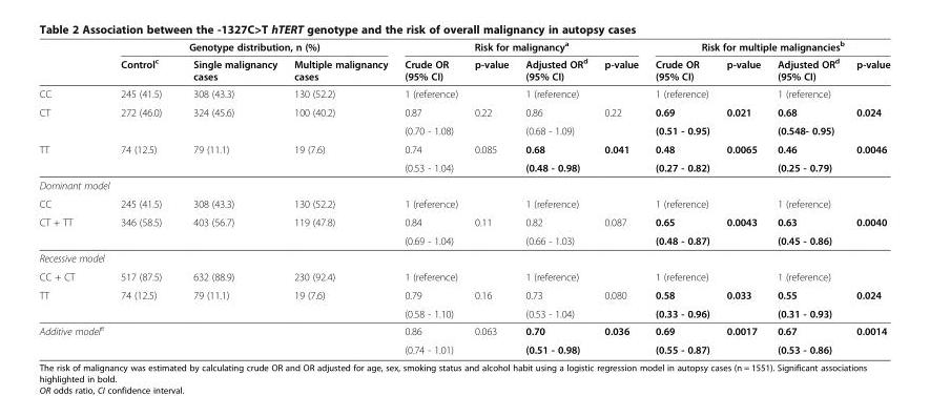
<table><thead><tr><td rowspan="2"></td><td colspan="3">Genotype distribution, n (%)</td><td colspan="4">Risk for malignancy<sup>a</sup></td><td colspan="4">Risk for multiple malignancies<sup>b</sup></td></tr><tr><td>Control<sup>c</sup></td><td>Single malignancy cases</td><td>Multiple malignancy cases</td><td>Crude OR (95% CI)</td><td>p-value</td><td>Adjusted OR<sup>d</sup> (95% CI)</td><td>p-value</td><td>Crude OR (95% CI)</td><td>p-value</td><td>Adjusted OR<sup>d</sup> (95% CI)</td><td>p-value</td></tr></thead><tbody><tr><td>CC</td><td>245 (41.5)</td><td>308 (43.3)</td><td>130 (52.2)</td><td>1 (reference)</td><td></td><td>1 (reference)</td><td></td><td>1 (reference)</td><td></td><td>1 (reference)</td><td></td></tr><tr><td rowspan="2">CT</td><td>272 (46.0)</td><td>324 (45.6)</td><td>100 (40.2)</td><td>0.87</td><td>0.22</td><td>0.86</td><td>0.22</td><td>0.69</td><td>0.021</td><td>0.68</td><td>0.024</td></tr><tr><td></td><td></td><td></td><td>(0.70 - 1.08)</td><td></td><td>(0.68 - 1.09)</td><td></td><td>(0.51 - 0.95)</td><td></td><td>(0.548- 0.95)</td><td></td></tr><tr><td rowspan="2">TT</td><td>74 (12.5)</td><td>79 (11.1)</td><td>19 (7.6)</td><td>0.74</td><td>0.085</td><td>0.68</td><td>0.041</td><td>0.48</td><td>0.0065</td><td>0.46</td><td>0.0046</td></tr><tr><td></td><td></td><td></td><td>(0.53 - 1.04)</td><td></td><td>(0.48 - 0.98)</td><td></td><td>(0.27 - 0.82)</td><td></td><td>(0.25 - 0.79)</td><td></td></tr><tr><td colspan="12">Dominant model</td></tr><tr><td>CC</td><td>245 (41.5)</td><td>308 (43.3)</td><td>130 (52.2)</td><td>1 (reference)</td><td></td><td>1 (reference)</td><td></td><td>1 (reference)</td><td></td><td>1 (reference)</td><td></td></tr><tr><td rowspan="2">CT + TT</td><td>346 (58.5)</td><td>403 (56.7)</td><td>119 (47.8)</td><td>0.84</td><td>0.11</td><td>0.82</td><td>0.087</td><td>0.65</td><td>0.0043</td><td>0.63</td><td>0.0040</td></tr><tr><td></td><td></td><td></td><td>(0.69 - 1.04)</td><td></td><td>(0.66 - 1.03)</td><td></td><td>(0.48 - 0.87)</td><td></td><td>(0.45 - 0.86)</td><td></td></tr><tr><td colspan="12">Recessive model</td></tr><tr><td>CC + CT</td><td>517 (87.5)</td><td>632 (88.9)</td><td>230 (92.4)</td><td>1 (reference)</td><td></td><td>1 (reference)</td><td></td><td>1 (reference)</td><td></td><td>1 (reference)</td><td></td></tr><tr><td rowspan="2">TT</td><td>74 (12.5)</td><td>79 (11.1)</td><td>19 (7.6)</td><td>0.79</td><td>0.16</td><td>0.73</td><td>0.080</td><td>0.58</td><td>0.033</td><td>0.55</td><td>0.024</td></tr><tr><td></td><td></td><td></td><td>(0.58 - 1.10)</td><td></td><td>(0.53 - 1.04)</td><td></td><td>(0.33 - 0.96)</td><td></td><td>(0.31 - 0.93)</td><td></td></tr><tr><td rowspan="2">Additive model<sup>e</sup></td><td></td><td></td><td></td><td>0.86</td><td>0.063</td><td>0.70</td><td>0.036</td><td>0.69</td><td>0.0017</td><td>0.67</td><td>0.0014</td></tr><tr><td></td><td></td><td></td><td>(0.74 - 1.01)</td><td></td><td>(0.51 - 0.98)</td><td></td><td>(0.55 - 0.87)</td><td></td><td>(0.53 - 0.86)</td><td></td></tr></tbody></table>